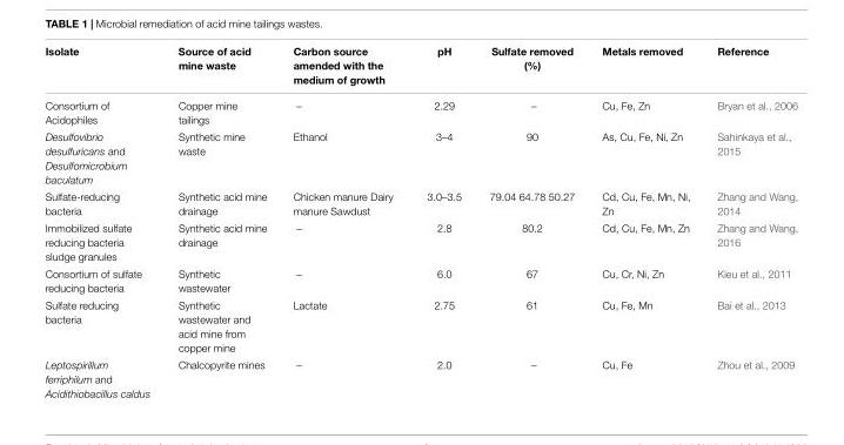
<table><thead><tr><td>Isolate</td><td>Source of acid mine waste</td><td>Carbon source amended with the medium of growth</td><td>pH</td><td>Sulfate removed (%)</td><td>Metals removed</td><td>Reference</td></tr></thead><tbody><tr><td>Consortium of Acidophiles</td><td>Copper mine tailings</td><td>–</td><td>2.29</td><td>–</td><td>Cu, Fe, Zn</td><td>Bryan et al., 2006</td></tr><tr><td>Desulfovibrio desulfuricans and Desulfomicrobium baculatum</td><td>Synthetic mine waste</td><td>Ethanol</td><td>3–4</td><td>90</td><td>As, Cu, Fe, Ni, Zn</td><td>Sahinkaya et al., 2015</td></tr><tr><td>Sulfate-reducing bacteria</td><td>Synthetic acid mine drainage</td><td>Chicken manure Dairy manure Sawdust</td><td>3.0–3.5</td><td>79.04 64.78 50.27</td><td>Cd, Cu, Fe, Mn, Ni, Zn</td><td>Zhang and Wang, 2014</td></tr><tr><td>Immobilized sulfate reducing bacteria sludge granules</td><td>Synthetic acid mine drainage</td><td>–</td><td>2.8</td><td>80.2</td><td>Cd, Cu, Fe, Mn, Zn</td><td>Zhang and Wang, 2016</td></tr><tr><td>Consortium of sulfate reducing bacteria</td><td>Synthetic wastewater</td><td>–</td><td>6.0</td><td>67</td><td>Cu, Cr, Ni, Zn</td><td>Kieu et al., 2011</td></tr><tr><td>Sulfate reducing bacteria</td><td>Synthetic wastewater and acid mine from copper mine</td><td>Lactate</td><td>2.75</td><td>61</td><td>Cu, Fe, Mn</td><td>Bai et al., 2013</td></tr><tr><td>Leptospirillum ferriphilum and Acidithiobacillus caldus</td><td>Chalcopyrite mines</td><td>–</td><td>2.0</td><td>–</td><td>Cu, Fe</td><td>Zhou et al., 2009</td></tr></tbody></table>